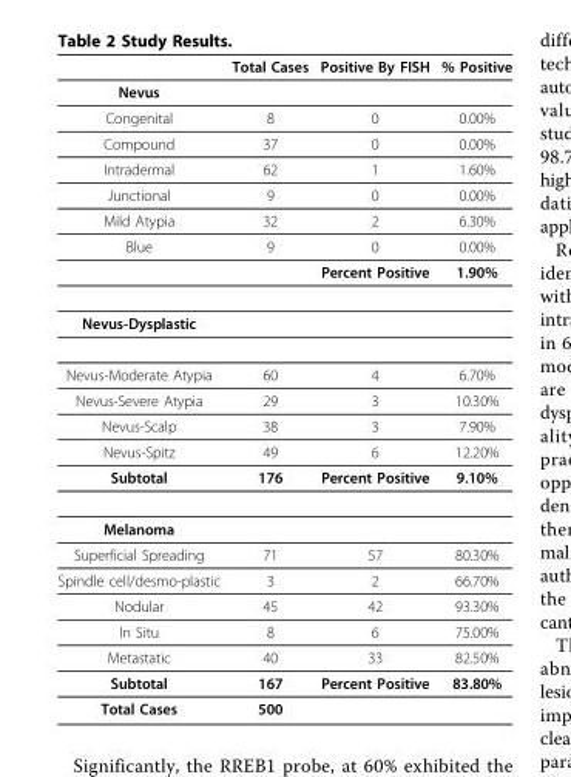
<table><thead><tr><td></td><td>Total Cases</td><td>Positive By FISH</td><td>% Positive</td></tr></thead><tbody><tr><td colspan="4">Nevus</td></tr><tr><td>Congenital</td><td>8</td><td>0</td><td>0.00%</td></tr><tr><td>Compound</td><td>37</td><td>0</td><td>0.00%</td></tr><tr><td>Intradermal</td><td>62</td><td>1</td><td>1.60%</td></tr><tr><td>Junctional</td><td>9</td><td>0</td><td>0.00%</td></tr><tr><td>Mild Atypia</td><td>32</td><td>2</td><td>6.30%</td></tr><tr><td rowspan="2">Blue</td><td>9</td><td>0</td><td>0.00%</td></tr><tr><td></td><td>Percent Positive</td><td>1.90%</td></tr><tr><td colspan="4">Nevus-Dysplastic</td></tr><tr><td>Nevus-Moderate Atypia</td><td>60</td><td>4</td><td>6.70%</td></tr><tr><td>Nevus-Severe Atypia</td><td>29</td><td>3</td><td>10.30%</td></tr><tr><td>Nevus-Scalp</td><td>38</td><td>3</td><td>7.90%</td></tr><tr><td>Nevus-Spitz</td><td>49</td><td>6</td><td>12.20%</td></tr><tr><td>Subtotal</td><td>176</td><td>Percent Positive</td><td>9.10%</td></tr><tr><td colspan="4">Melanoma</td></tr><tr><td>Superficial Spreading</td><td>71</td><td>57</td><td>80.30%</td></tr><tr><td>Spindle cell/desmo-plastic</td><td>3</td><td>2</td><td>66.70%</td></tr><tr><td>Nodular</td><td>45</td><td>42</td><td>93.30%</td></tr><tr><td>In Situ</td><td>8</td><td>6</td><td>75.00%</td></tr><tr><td>Metastatic</td><td>40</td><td>33</td><td>82.50%</td></tr><tr><td>Subtotal</td><td>167</td><td>Percent Positive</td><td>83.80%</td></tr><tr><td>Total Cases</td><td>500</td><td></td><td></td></tr></tbody></table>